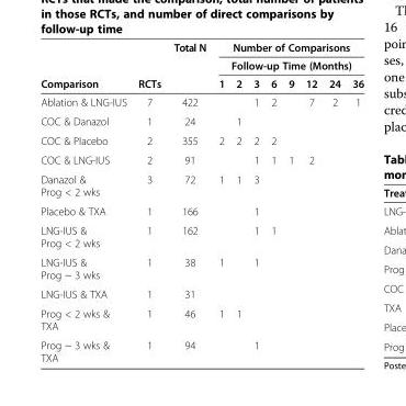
<table><thead><tr><td rowspan="3">Comparison</td><td rowspan="3">RCTs</td><td rowspan="3">Total N</td><td rowspan="2" colspan="8">Number of Comparisons Follow-up Time (Months)</td></tr><tr></tr><tr><td>1</td><td>2</td><td>3</td><td>6</td><td>9</td><td>12</td><td>24</td><td>36</td></tr></thead><tbody><tr><td>Ablation &amp; LNG-IUS</td><td>7</td><td>422</td><td></td><td></td><td>1</td><td>2</td><td></td><td>7</td><td>2</td><td>1</td></tr><tr><td>COC &amp; Danazol</td><td>1</td><td>24</td><td></td><td>1</td><td></td><td></td><td></td><td></td><td></td><td></td></tr><tr><td>COC &amp; Placebo</td><td>2</td><td>355</td><td>2</td><td>2</td><td>2</td><td>2</td><td></td><td></td><td></td><td></td></tr><tr><td>COC &amp; LNG-IUS</td><td>2</td><td>91</td><td></td><td></td><td>1</td><td>1</td><td>1</td><td>2</td><td></td><td></td></tr><tr><td>Danazol &amp; Prog &lt; 2 wks</td><td>3</td><td>72</td><td>1</td><td>1</td><td>3</td><td></td><td></td><td></td><td></td><td></td></tr><tr><td>Placebo &amp; TXA</td><td>1</td><td>166</td><td></td><td></td><td>1</td><td></td><td></td><td></td><td></td><td></td></tr><tr><td>LNG-IUS &amp; Prog &lt; 2 wks</td><td>1</td><td>162</td><td></td><td></td><td>1</td><td>1</td><td></td><td></td><td></td><td></td></tr><tr><td>LNG-IUS &amp; Prog ~ 3 wks</td><td>1</td><td>38</td><td>1</td><td></td><td>1</td><td></td><td></td><td></td><td></td><td></td></tr><tr><td>LNG-IUS &amp; TXA</td><td>1</td><td>31</td><td></td><td></td><td></td><td></td><td></td><td></td><td></td><td></td></tr><tr><td>Prog &lt; 2 wks &amp; TXA</td><td>1</td><td>46</td><td>1</td><td>1</td><td></td><td></td><td></td><td></td><td></td><td></td></tr><tr><td>Prog ~ 3 wks &amp; TXA</td><td>1</td><td>94</td><td></td><td></td><td>1</td><td></td><td></td><td></td><td></td><td></td></tr></tbody></table>